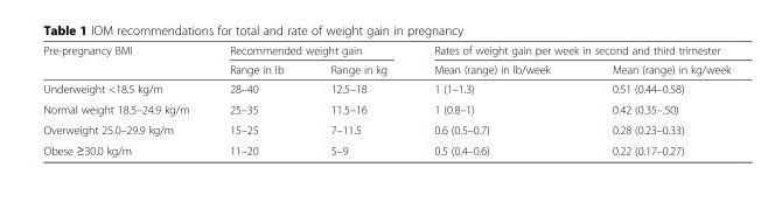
<table><thead><tr><td rowspan="2">Pre-pregnancy BMI</td><td colspan="2">Recommended weight gain</td><td colspan="2">Rates of weight gain per week in second and third trimester</td></tr><tr><td>Range in lb</td><td>Range in kg</td><td>Mean (range) in lb/week</td><td>Mean (range) in kg/week</td></tr></thead><tbody><tr><td>Underweight &lt;18.5 kg/m</td><td>28–40</td><td>12.5–18</td><td>1 (1–1.3)</td><td>0.51 (0.44–0.58)</td></tr><tr><td>Normal weight 18.5–24.9 kg/m</td><td>25–35</td><td>11.5–16</td><td>1 (0.8–1)</td><td>0.42 (0.35–.50)</td></tr><tr><td>Overweight 25.0–29.9 kg/m</td><td>15–25</td><td>7–11.5</td><td>0.6 (0.5–0.7)</td><td>0.28 (0.23–0.33)</td></tr><tr><td>Obese ≥30.0 kg/m</td><td>11–20</td><td>5–9</td><td>0.5 (0.4–0.6)</td><td>0.22 (0.17–0.27)</td></tr></tbody></table>